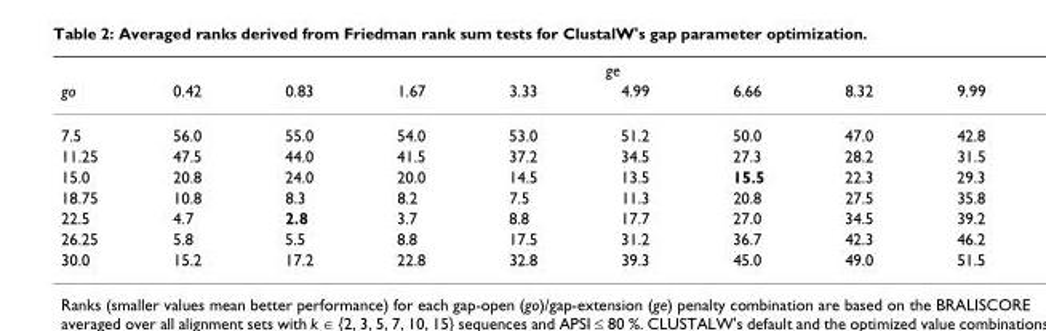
<table><thead><tr><td rowspan="2">go</td><td colspan="8">ge</td></tr><tr><td>0.42</td><td>0.83</td><td>1.67</td><td>3.33</td><td>4.99</td><td>6.66</td><td>8.32</td><td>9.99</td></tr></thead><tbody><tr><td>7.5</td><td>56.0</td><td>55.0</td><td>54.0</td><td>53.0</td><td>51.2</td><td>50.0</td><td>47.0</td><td>42.8</td></tr><tr><td>11.25</td><td>47.5</td><td>44.0</td><td>41.5</td><td>37.2</td><td>34.5</td><td>27.3</td><td>28.2</td><td>31.5</td></tr><tr><td>15.0</td><td>20.8</td><td>24.0</td><td>20.0</td><td>14.5</td><td>13.5</td><td>15.5</td><td>22.3</td><td>29.3</td></tr><tr><td>18.75</td><td>10.8</td><td>8.3</td><td>8.2</td><td>7.5</td><td>11.3</td><td>20.8</td><td>27.5</td><td>35.8</td></tr><tr><td>22.5</td><td>4.7</td><td>2.8</td><td>3.7</td><td>8.8</td><td>17.7</td><td>27.0</td><td>34.5</td><td>39.2</td></tr><tr><td>26.25</td><td>5.8</td><td>5.5</td><td>8.8</td><td>17.5</td><td>31.2</td><td>36.7</td><td>42.3</td><td>46.2</td></tr><tr><td>30.0</td><td>15.2</td><td>17.2</td><td>22.8</td><td>32.8</td><td>39.3</td><td>45.0</td><td>49.0</td><td>51.5</td></tr></tbody></table>